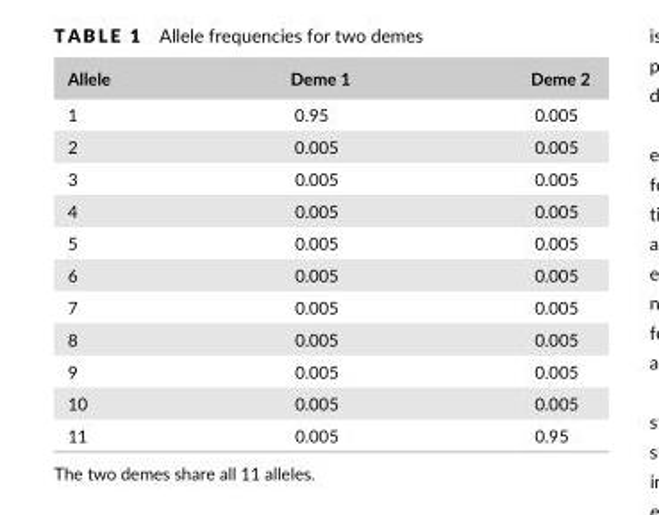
<table><thead><tr><td>Allele</td><td>Deme 1</td><td>Deme 2</td></tr></thead><tbody><tr><td>1</td><td>0.95</td><td>0.005</td></tr><tr><td>2</td><td>0.005</td><td>0.005</td></tr><tr><td>3</td><td>0.005</td><td>0.005</td></tr><tr><td>4</td><td>0.005</td><td>0.005</td></tr><tr><td>5</td><td>0.005</td><td>0.005</td></tr><tr><td>6</td><td>0.005</td><td>0.005</td></tr><tr><td>7</td><td>0.005</td><td>0.005</td></tr><tr><td>8</td><td>0.005</td><td>0.005</td></tr><tr><td>9</td><td>0.005</td><td>0.005</td></tr><tr><td>10</td><td>0.005</td><td>0.005</td></tr><tr><td>11</td><td>0.005</td><td>0.95</td></tr></tbody></table>